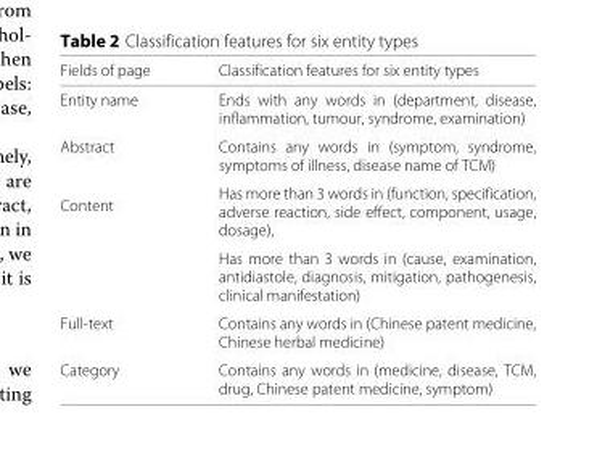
<table><thead><tr><td>Fields of page</td><td>Classification features for six entity types</td></tr></thead><tbody><tr><td>Entity name</td><td>Ends with any words in (department, disease, inflammation, tumour, syndrome, examination)</td></tr><tr><td>Abstract</td><td>Contains any words in (symptom, syndrome, symptoms of illness, disease name of TCM)</td></tr><tr><td rowspan="2">Content</td><td>Has more than 3 words in (function, specification, adverse reaction, side effect, component, usage, dosage),</td></tr><tr><td>Has more than 3 words in (cause, examination, antidiastole, diagnosis, mitigation, pathogenesis, clinical manifestation)</td></tr><tr><td>Full-text</td><td>Contains any words in (Chinese patent medicine, Chinese herbal medicine)</td></tr><tr><td>Category</td><td>Contains any words in (medicine, disease, TCM, drug, Chinese patent medicine, symptom)</td></tr></tbody></table>